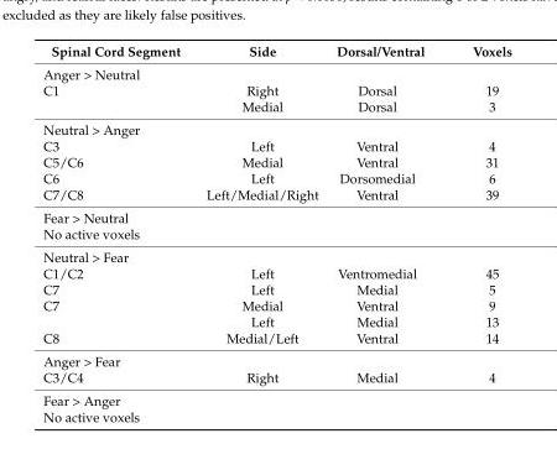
<table><thead><tr><td>Spinal Cord Segment</td><td>Side</td><td>Dorsal/Ventral</td><td>Voxels</td></tr></thead><tbody><tr><td colspan="4">Anger &gt; Neutral</td></tr><tr><td rowspan="2">C1</td><td>Right</td><td>Dorsal</td><td>19</td></tr><tr><td>Medial</td><td>Dorsal</td><td>3</td></tr><tr><td colspan="4">Neutral &gt; Anger</td></tr><tr><td>C3</td><td>Left</td><td>Ventral</td><td>4</td></tr><tr><td>C5/C6</td><td>Medial</td><td>Ventral</td><td>31</td></tr><tr><td>C6</td><td>Left</td><td>Dorsomedial</td><td>6</td></tr><tr><td>C7/C8</td><td>Left/Medial/Right</td><td>Ventral</td><td>39</td></tr><tr><td colspan="4">Fear &gt; Neutral</td></tr><tr><td colspan="4">No active voxels</td></tr><tr><td colspan="4">Neutral &gt; Fear</td></tr><tr><td>C1/C2</td><td>Left</td><td>Ventromedial</td><td>45</td></tr><tr><td>C7</td><td>Left</td><td>Medial</td><td>5</td></tr><tr><td rowspan="2">C7</td><td>Medial</td><td>Ventral</td><td>9</td></tr><tr><td>Left</td><td>Medial</td><td>13</td></tr><tr><td>C8</td><td>Medial/Left</td><td>Ventral</td><td>14</td></tr><tr><td colspan="4">Anger &gt; Fear</td></tr><tr><td>C3/C4</td><td>Right</td><td>Medial</td><td>4</td></tr><tr><td colspan="4">Fear &gt; Anger</td></tr><tr><td colspan="4">No active voxels</td></tr></tbody></table>